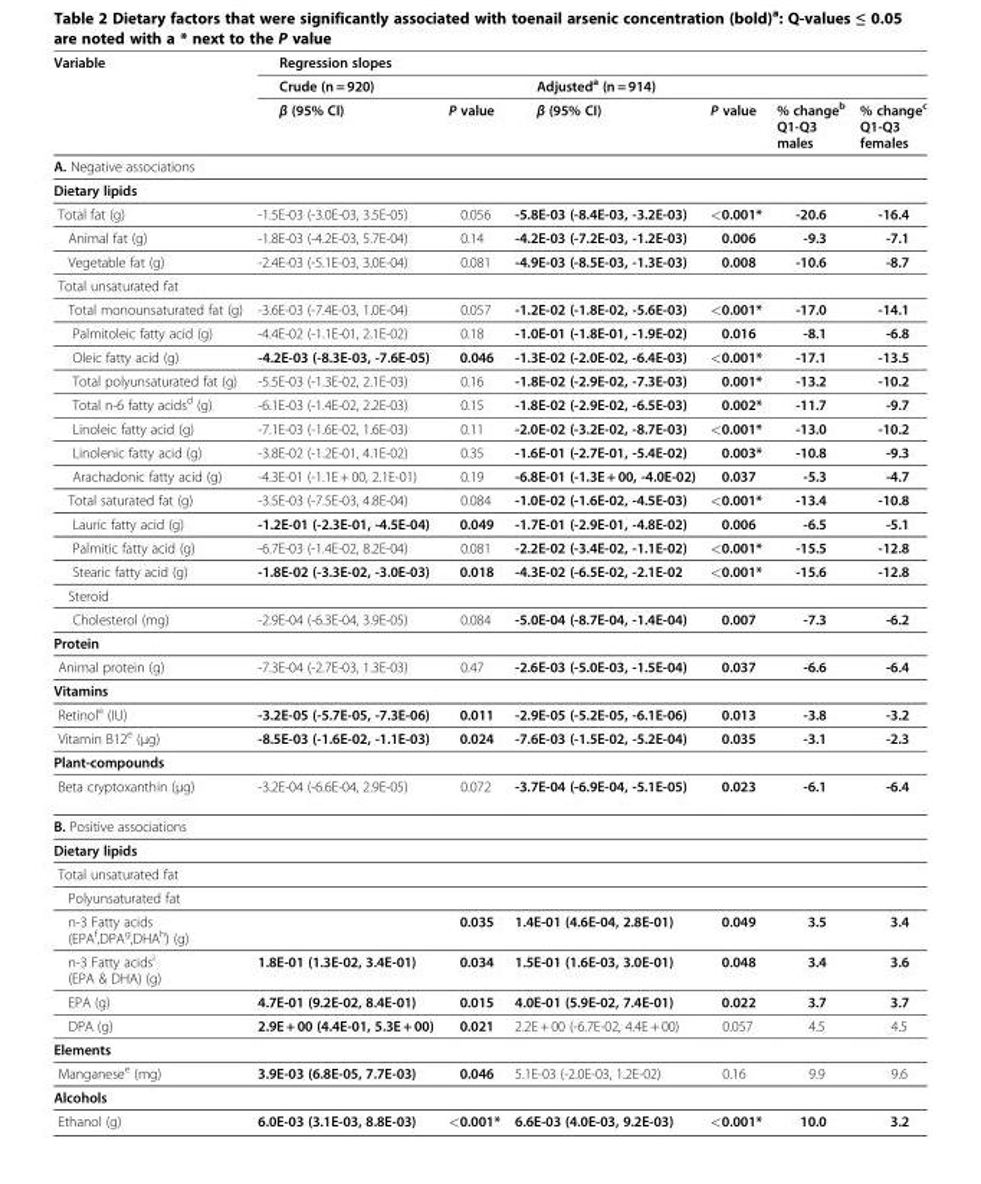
<table><thead><tr><td rowspan="3">Variable</td><td colspan="6">Regression slopes</td></tr><tr><td colspan="2">Crude (n = 920)</td><td colspan="4">Adjusted<sup>a</sup> (n = 914)</td></tr><tr><td>β (95% CI)</td><td>P value</td><td>β (95% CI)</td><td>P value</td><td>% change<sup>b</sup> Q1-Q3 males</td><td>% change<sup>c</sup> Q1-Q3 females</td></tr></thead><tbody><tr><td colspan="7">A. Negative associations</td></tr><tr><td colspan="7">Dietary lipids</td></tr><tr><td>Total fat (g)</td><td>-1.5E-03 (-3.0E-03, 3.5E-05)</td><td>0.056</td><td>-5.8E-03 (-8.4E-03, -3.2E-03)</td><td>&lt;0.001*</td><td>-20.6</td><td>-16.4</td></tr><tr><td>Animal fat (g)</td><td>-1.8E-03 (-4.2E-03, 5.7E-04)</td><td>0.14</td><td>-4.2E-03 (-7.2E-03, -1.2E-03)</td><td>0.006</td><td>-9.3</td><td>-7.1</td></tr><tr><td>Vegetable fat (g)</td><td>-2.4E-03 (-5.1E-03, 3.0E-04)</td><td>0.081</td><td>-4.9E-03 (-8.5E-03, -1.3E-03)</td><td>0.008</td><td>-10.6</td><td>-8.7</td></tr><tr><td colspan="7">Total unsaturated fat</td></tr><tr><td>Total monounsaturated fat (g)</td><td>-3.6E-03 (-7.4E-03, 1.0E-04)</td><td>0.057</td><td>-1.2E-02 (-1.8E-02, -5.6E-03)</td><td>&lt;0.001*</td><td>-17.0</td><td>-14.1</td></tr><tr><td>Palmitoleic fatty acid (g)</td><td>-4.4E-02 (-1.1E-01, 2.1E-02)</td><td>0.18</td><td>-1.0E-01 (-1.8E-01, -1.9E-02)</td><td>0.016</td><td>-8.1</td><td>-6.8</td></tr><tr><td>Oleic fatty acid (g)</td><td>-4.2E-03 (-8.3E-03, -7.6E-05)</td><td>0.046</td><td>-1.3E-02 (-2.0E-02, -6.4E-03)</td><td>&lt;0.001*</td><td>-17.1</td><td>-13.5</td></tr><tr><td>Total polyunsaturated fat (g)</td><td>-5.5E-03 (-1.3E-02, 2.1E-03)</td><td>0.16</td><td>-1.8E-02 (-2.9E-02, -7.3E-03)</td><td>0.001*</td><td>-13.2</td><td>-10.2</td></tr><tr><td>Total n-6 fatty acids<sup>d</sup> (g)</td><td>-6.1E-03 (-1.4E-02, 2.2E-03)</td><td>0.15</td><td>-1.8E-02 (-2.9E-02, -6.5E-03)</td><td>0.002*</td><td>-11.7</td><td>-9.7</td></tr><tr><td>Linoleic fatty acid (g)</td><td>-7.1E-03 (-1.6E-02, 1.6E-03)</td><td>0.11</td><td>-2.0E-02 (-3.2E-02, -8.7E-03)</td><td>&lt;0.001*</td><td>-13.0</td><td>-10.2</td></tr><tr><td>Linolenic fatty acid (g)</td><td>-3.8E-02 (-1.2E-01, 4.1E-02)</td><td>0.35</td><td>-1.6E-01 (-2.7E-01, -5.4E-02)</td><td>0.003*</td><td>-10.8</td><td>-9.3</td></tr><tr><td>Arachadonic fatty acid (g)</td><td>-4.3E-01 (-1.1E + 00, 2.1E-01)</td><td>0.19</td><td>-6.8E-01 (-1.3E + 00, -4.0E-02)</td><td>0.037</td><td>-5.3</td><td>-4.7</td></tr><tr><td>Total saturated fat (g)</td><td>-3.5E-03 (-7.5E-03, 4.8E-04)</td><td>0.084</td><td>-1.0E-02 (-1.6E-02, -4.5E-03)</td><td>&lt;0.001*</td><td>-13.4</td><td>-10.8</td></tr><tr><td>Lauric fatty acid (g)</td><td>-1.2E-01 (-2.3E-01, -4.5E-04)</td><td>0.049</td><td>-1.7E-01 (-2.9E-01, -4.8E-02)</td><td>0.006</td><td>-6.5</td><td>-5.1</td></tr><tr><td>Palmitic fatty acid (g)</td><td>-6.7E-03 (-1.4E-02, 8.2E-04)</td><td>0.081</td><td>-2.2E-02 (-3.4E-02, -1.1E-02)</td><td>&lt;0.001*</td><td>-15.5</td><td>-12.8</td></tr><tr><td>Stearic fatty acid (g)</td><td>-1.8E-02 (-3.3E-02, -3.0E-03)</td><td>0.018</td><td>-4.3E-02 (-6.5E-02, -2.1E-02</td><td>&lt;0.001*</td><td>-15.6</td><td>-12.8</td></tr><tr><td colspan="7">Steroid</td></tr><tr><td>Cholesterol (mg)</td><td>-2.9E-04 (-6.3E-04, 3.9E-05)</td><td>0.084</td><td>-5.0E-04 (-8.7E-04, -1.4E-04)</td><td>0.007</td><td>-7.3</td><td>-6.2</td></tr><tr><td colspan="7">Protein</td></tr><tr><td>Animal protein (g)</td><td>-7.3E-04 (-2.7E-03, 1.3E-03)</td><td>0.47</td><td>-2.6E-03 (-5.0E-03, -1.5E-04)</td><td>0.037</td><td>-6.6</td><td>-6.4</td></tr><tr><td colspan="7">Vitamins</td></tr><tr><td>Retinol<sup>e</sup> (IU)</td><td>-3.2E-05 (-5.7E-05, -7.3E-06)</td><td>0.011</td><td>-2.9E-05 (-5.2E-05, -6.1E-06)</td><td>0.013</td><td>-3.8</td><td>-3.2</td></tr><tr><td>Vitamin B12<sup>e</sup> (μg)</td><td>-8.5E-03 (-1.6E-02, -1.1E-03)</td><td>0.024</td><td>-7.6E-03 (-1.5E-02, -5.2E-04)</td><td>0.035</td><td>-3.1</td><td>-2.3</td></tr><tr><td colspan="7">Plant-compounds</td></tr><tr><td>Beta cryptoxanthin (μg)</td><td>-3.2E-04 (-6.6E-04, 2.9E-05)</td><td>0.072</td><td>-3.7E-04 (-6.9E-04, -5.1E-05)</td><td>0.023</td><td>-6.1</td><td>-6.4</td></tr><tr><td colspan="7">B. Positive associations</td></tr><tr><td colspan="7">Dietary lipids</td></tr><tr><td colspan="7">Total unsaturated fat</td></tr><tr><td colspan="7">Polyunsaturated fat</td></tr><tr><td>n-3 Fatty acids (EPA<sup>f</sup>,DPA<sup>g</sup>,DHA<sup>h</sup>) (g)</td><td></td><td>0.035</td><td>1.4E-01 (4.6E-04, 2.8E-01)</td><td>0.049</td><td>3.5</td><td>3.4</td></tr><tr><td>n-3 Fatty acids<sup>i</sup> (EPA &amp; DHA) (g)</td><td>1.8E-01 (1.3E-02, 3.4E-01)</td><td>0.034</td><td>1.5E-01 (1.6E-03, 3.0E-01)</td><td>0.048</td><td>3.4</td><td>3.6</td></tr><tr><td>EPA (g)</td><td>4.7E-01 (9.2E-02, 8.4E-01)</td><td>0.015</td><td>4.0E-01 (5.9E-02, 7.4E-01)</td><td>0.022</td><td>3.7</td><td>3.7</td></tr><tr><td>DPA (g)</td><td>2.9E + 00 (4.4E-01, 5.3E + 00)</td><td>0.021</td><td>2.2E + 00 (-6.7E-02, 4.4E + 00)</td><td>0.057</td><td>4.5</td><td>4.5</td></tr><tr><td colspan="7">Elements</td></tr><tr><td>Manganese<sup>e</sup> (mg)</td><td>3.9E-03 (6.8E-05, 7.7E-03)</td><td>0.046</td><td>5.1E-03 (-2.0E-03, 1.2E-02)</td><td>0.16</td><td>9.9</td><td>9.6</td></tr><tr><td colspan="7">Alcohols</td></tr><tr><td>Ethanol (g)</td><td>6.0E-03 (3.1E-03, 8.8E-03)</td><td>&lt;0.001*</td><td>6.6E-03 (4.0E-03, 9.2E-03)</td><td>&lt;0.001*</td><td>10.0</td><td>3.2</td></tr></tbody></table>